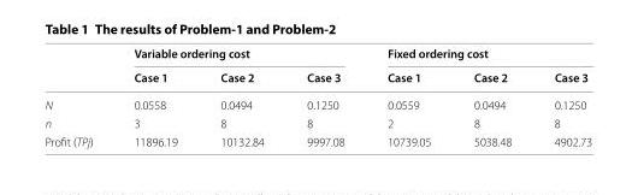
<table><thead><tr><td rowspan="2"></td><td colspan="3">Variable ordering cost</td><td colspan="3">Fixed ordering cost</td></tr><tr><td>Case 1</td><td>Case 2</td><td>Case 3</td><td>Case 1</td><td>Case 2</td><td>Case 3</td></tr></thead><tbody><tr><td>N</td><td>0.0558</td><td>0.0494</td><td>0.1250</td><td>0.0559</td><td>0.0494</td><td>0.1250</td></tr><tr><td>n</td><td>3</td><td>8</td><td>8</td><td>2</td><td>8</td><td>8</td></tr><tr><td>Profit (TPj)</td><td>11896.19</td><td>10132.84</td><td>9997.08</td><td>10739.05</td><td>5038.48</td><td>4902.73</td></tr></tbody></table>